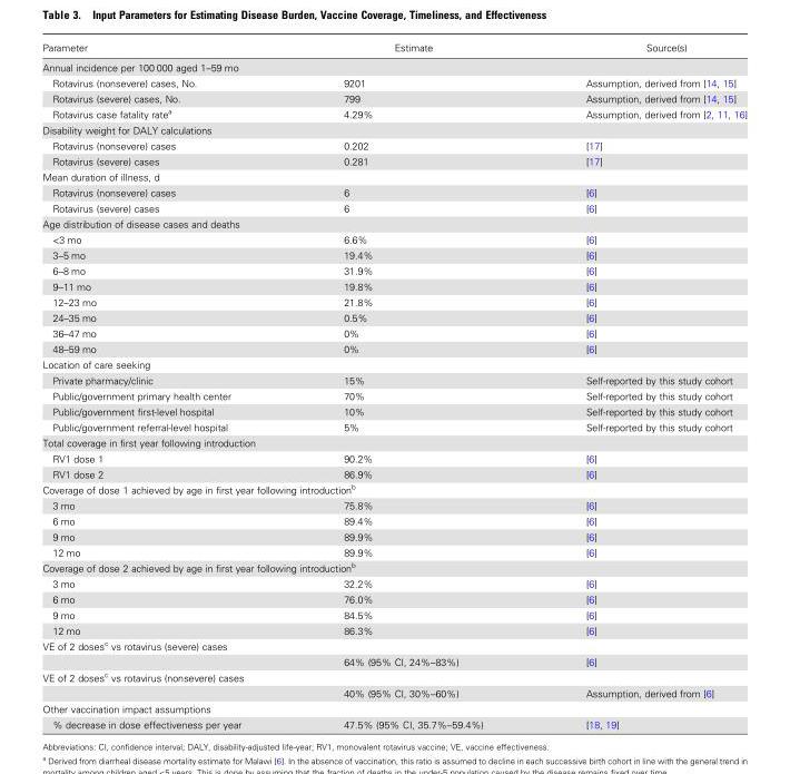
<table><thead><tr><td>Parameter</td><td>Estimate</td><td>Source(s)</td></tr></thead><tbody><tr><td colspan="3">Annual incidence per 100 000 aged 1–59 mo</td></tr><tr><td>Rotavirus (nonsevere) cases, No.</td><td>9201</td><td>Assumption, derived from [14, 15]</td></tr><tr><td>Rotavirus (severe) cases, No.</td><td>799</td><td>Assumption, derived from [14, 15]</td></tr><tr><td>Rotavirus case fatality rate<sup>a</sup></td><td>4.29%</td><td>Assumption, derived from [2, 11, 16]</td></tr><tr><td colspan="3">Disability weight for DALY calculations</td></tr><tr><td>Rotavirus (nonsevere) cases</td><td>0.202</td><td>[17]</td></tr><tr><td>Rotavirus (severe) cases</td><td>0.281</td><td>[17]</td></tr><tr><td colspan="3">Mean duration of illness, d</td></tr><tr><td>Rotavirus (nonsevere) cases</td><td>6</td><td>[6]</td></tr><tr><td>Rotavirus (severe) cases</td><td>6</td><td>[6]</td></tr><tr><td colspan="3">Age distribution of disease cases and deaths</td></tr><tr><td>&lt;3 mo</td><td>6.6%</td><td>[6]</td></tr><tr><td>3–5 mo</td><td>19.4%</td><td>[6]</td></tr><tr><td>6–8 mo</td><td>31.9%</td><td>[6]</td></tr><tr><td>9–11 mo</td><td>19.8%</td><td>[6]</td></tr><tr><td>12–23 mo</td><td>21.8%</td><td>[6]</td></tr><tr><td>24–35 mo</td><td>0.5%</td><td>[6]</td></tr><tr><td>36–47 mo</td><td>0%</td><td>[6]</td></tr><tr><td>48–59 mo</td><td>0%</td><td>[6]</td></tr><tr><td colspan="3">Location of care seeking</td></tr><tr><td>Private pharmacy/clinic</td><td>15%</td><td>Self-reported by this study cohort</td></tr><tr><td>Public/government primary health center</td><td>70%</td><td>Self-reported by this study cohort</td></tr><tr><td>Public/government first-level hospital</td><td>10%</td><td>Self-reported by this study cohort</td></tr><tr><td>Public/government referral-level hospital</td><td>5%</td><td>Self-reported by this study cohort</td></tr><tr><td colspan="3">Total coverage in first year following introduction</td></tr><tr><td>RV1 dose 1</td><td>90.2%</td><td>[6]</td></tr><tr><td>RV1 dose 2</td><td>86.9%</td><td>[6]</td></tr><tr><td colspan="3">Coverage of dose 1 achieved by age in first year following introduction<sup>b</sup></td></tr><tr><td>3 mo</td><td>75.8%</td><td>[6]</td></tr><tr><td>6 mo</td><td>89.4%</td><td>[6]</td></tr><tr><td>9 mo</td><td>89.9%</td><td>[6]</td></tr><tr><td>12 mo</td><td>89.9%</td><td>[6]</td></tr><tr><td colspan="3">Coverage of dose 2 achieved by age in first year following introduction<sup>b</sup></td></tr><tr><td>3 mo</td><td>32.2%</td><td>[6]</td></tr><tr><td>6 mo</td><td>76.0%</td><td>[6]</td></tr><tr><td>9 mo</td><td>84.5%</td><td>[6]</td></tr><tr><td>12 mo</td><td>86.3%</td><td>[6]</td></tr><tr><td colspan="3">VE of 2 doses<sup>c</sup> vs rotavirus (severe) cases</td></tr><tr><td></td><td>64% (95% CI, 24%–83%)</td><td>[6]</td></tr><tr><td colspan="3">VE of 2 doses<sup>c</sup> vs rotavirus (nonsevere) cases</td></tr><tr><td></td><td>40% (95% CI, 30%–60%)</td><td>Assumption, derived from [6]</td></tr><tr><td colspan="3">Other vaccination impact assumptions</td></tr><tr><td>% decrease in dose effectiveness per year</td><td>47.5% (95% CI, 35.7%–59.4%)</td><td>[18, 19]</td></tr></tbody></table>